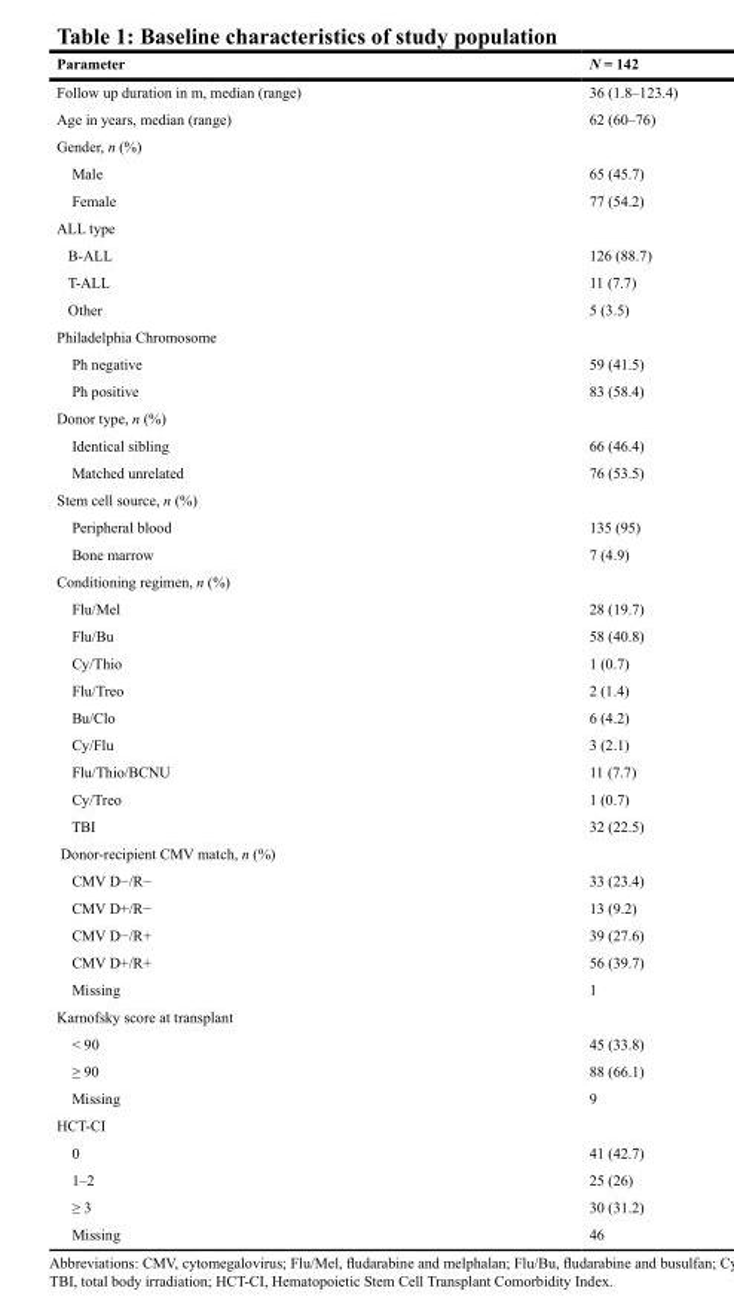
<table><thead><tr><td>Parameter</td><td>N = 142</td></tr></thead><tbody><tr><td>Follow up duration in m, median (range)</td><td>36 (1.8–123.4)</td></tr><tr><td>Age in years, median (range)</td><td>62 (60–76)</td></tr><tr><td colspan="2">Gender, n (%)</td></tr><tr><td>Male</td><td>65 (45.7)</td></tr><tr><td>Female</td><td>77 (54.2)</td></tr><tr><td colspan="2">ALL type</td></tr><tr><td>B-ALL</td><td>126 (88.7)</td></tr><tr><td>T-ALL</td><td>11 (7.7)</td></tr><tr><td>Other</td><td>5 (3.5)</td></tr><tr><td colspan="2">Philadelphia Chromosome</td></tr><tr><td>Ph negative</td><td>59 (41.5)</td></tr><tr><td>Ph positive</td><td>83 (58.4)</td></tr><tr><td colspan="2">Donor type, n (%)</td></tr><tr><td>Identical sibling</td><td>66 (46.4)</td></tr><tr><td>Matched unrelated</td><td>76 (53.5)</td></tr><tr><td colspan="2">Stem cell source, n (%)</td></tr><tr><td>Peripheral blood</td><td>135 (95)</td></tr><tr><td>Bone marrow</td><td>7 (4.9)</td></tr><tr><td colspan="2">Conditioning regimen, n (%)</td></tr><tr><td>Flu/Mel</td><td>28 (19.7)</td></tr><tr><td>Flu/Bu</td><td>58 (40.8)</td></tr><tr><td>Cy/Thio</td><td>1 (0.7)</td></tr><tr><td>Flu/Treo</td><td>2 (1.4)</td></tr><tr><td>Bu/Clo</td><td>6 (4.2)</td></tr><tr><td>Cy/Flu</td><td>3 (2.1)</td></tr><tr><td>Flu/Thio/BCNU</td><td>11 (7.7)</td></tr><tr><td>Cy/Treo</td><td>1 (0.7)</td></tr><tr><td>TBI</td><td>32 (22.5)</td></tr><tr><td colspan="2">Donor-recipient CMV match, n (%)</td></tr><tr><td>CMV D−/R−</td><td>33 (23.4)</td></tr><tr><td>CMV D+/R−</td><td>13 (9.2)</td></tr><tr><td>CMV D−/R+</td><td>39 (27.6)</td></tr><tr><td>CMV D+/R+</td><td>56 (39.7)</td></tr><tr><td>Missing</td><td>1</td></tr><tr><td colspan="2">Karnofsky score at transplant</td></tr><tr><td>&lt; 90</td><td>45 (33.8)</td></tr><tr><td>≥ 90</td><td>88 (66.1)</td></tr><tr><td>Missing</td><td>9</td></tr><tr><td colspan="2">HCT-CI</td></tr><tr><td>0</td><td>41 (42.7)</td></tr><tr><td>1–2</td><td>25 (26)</td></tr><tr><td>≥ 3</td><td>30 (31.2)</td></tr><tr><td>Missing</td><td>46</td></tr></tbody></table>